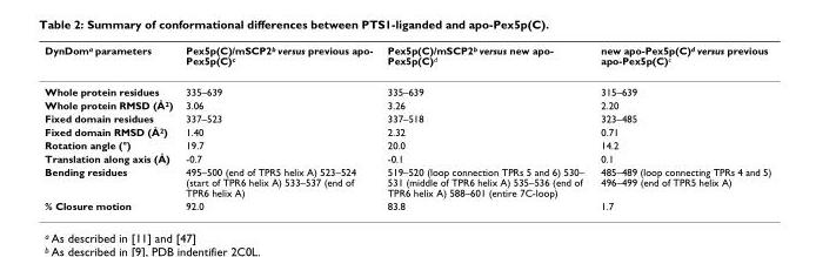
<table><thead><tr><td>DynDom<sup>a</sup> parameters</td><td>Pex5p(C)/mSCP2<sup>b</sup> versus previous apo- Pex5p(C)<sup>c</sup></td><td>Pex5p(C)/mSCP2<sup>b</sup> versus new apo- Pex5p(C)<sup>d</sup></td><td>new apo-Pex5p(C)<sup>d</sup> versus previous apo-Pex5p(C)<sup>c</sup></td></tr></thead><tbody><tr><td>Whole protein residues</td><td>335–639</td><td>335–639</td><td>315–639</td></tr><tr><td>Whole protein RMSD (Å<sup>2</sup>)</td><td>3.06</td><td>3.26</td><td>2.20</td></tr><tr><td>Fixed domain residues</td><td>337–523</td><td>337–518</td><td>323–485</td></tr><tr><td>Fixed domain RMSD (Å<sup>2</sup>)</td><td>1.40</td><td>2.32</td><td>0.71</td></tr><tr><td>Rotation angle (°)</td><td>19.7</td><td>20.0</td><td>14.2</td></tr><tr><td>Translation along axis (Å)</td><td>-0.7</td><td>-0.1</td><td>0.1</td></tr><tr><td>Bending residues</td><td>495–500 (end of TPR5 helix A) 523–524 (start of TPR6 helix A) 533–537 (end of TPR6 helix A)</td><td>519–520 (loop connection TPRs 5 and 6) 530– 531 (middle of TPR6 helix A) 535–536 (end of TPR6 helix A) 588–601 (entire 7C-loop)</td><td>485–489 (loop connecting TPRs 4 and 5) 496–499 (end of TPR5 helix A)</td></tr><tr><td>% Closure motion</td><td>92.0</td><td>83.8</td><td>1.7</td></tr></tbody></table>